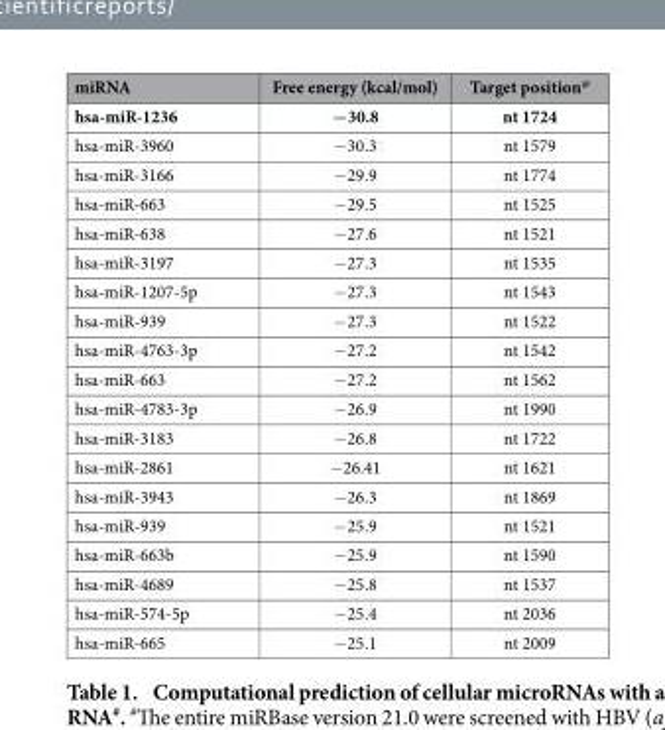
<table><thead><tr><td>miRNA</td><td>Free energy (kcal/mol)</td><td>Target position@</td></tr></thead><tbody><tr><td>hsa-miR-1236</td><td>−30.8</td><td>nt 1724</td></tr><tr><td>hsa-miR-3960</td><td>−30.3</td><td>nt 1579</td></tr><tr><td>hsa-miR-3166</td><td>−29.9</td><td>nt 1774</td></tr><tr><td>hsa-miR-663</td><td>−29.5</td><td>nt 1525</td></tr><tr><td>hsa-miR-638</td><td>−27.6</td><td>nt 1521</td></tr><tr><td>hsa-miR-3197</td><td>−27.3</td><td>nt 1535</td></tr><tr><td>hsa-miR-1207-5p</td><td>−27.3</td><td>nt 1543</td></tr><tr><td>hsa-miR-939</td><td>−27.3</td><td>nt 1522</td></tr><tr><td>hsa-miR-4763-3p</td><td>−27.2</td><td>nt 1542</td></tr><tr><td>hsa-miR-663</td><td>−27.2</td><td>nt 1562</td></tr><tr><td>hsa-miR-4783-3p</td><td>−26.9</td><td>nt 1990</td></tr><tr><td>hsa-miR-3183</td><td>−26.8</td><td>nt 1722</td></tr><tr><td>hsa-miR-2861</td><td>−26.41</td><td>nt 1621</td></tr><tr><td>hsa-miR-3943</td><td>−26.3</td><td>nt 1869</td></tr><tr><td>hsa-miR-939</td><td>−25.9</td><td>nt 1521</td></tr><tr><td>hsa-miR-663b</td><td>−25.9</td><td>nt 1590</td></tr><tr><td>hsa-miR-4689</td><td>−25.8</td><td>nt 1537</td></tr><tr><td>hsa-miR-574-5p</td><td>−25.4</td><td>nt 2036</td></tr><tr><td>hsa-miR-665</td><td>−25.1</td><td>nt 2009</td></tr></tbody></table>